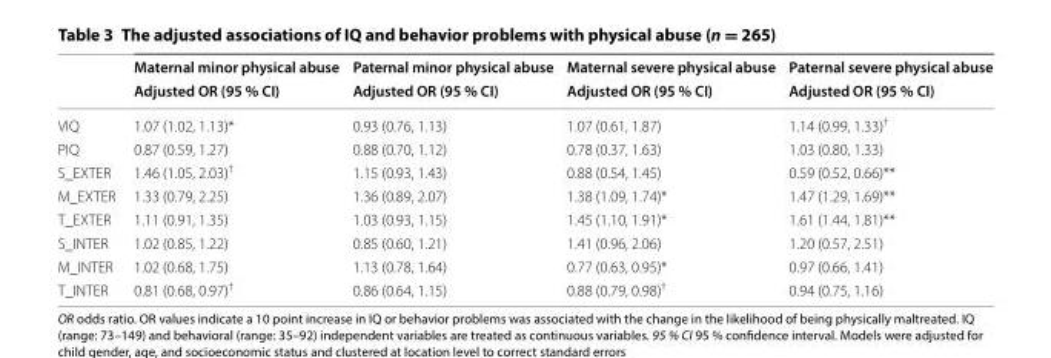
<table><thead><tr><td rowspan="2"></td><td rowspan="2">Maternal minor physical abuse Adjusted OR (95 % CI)</td><td rowspan="2">Paternal minor physical abuse Adjusted OR (95 % CI)</td><td rowspan="2">Maternal severe physical abuse Adjusted OR (95 % CI)</td><td rowspan="2">Paternal severe physical abuse Adjusted OR (95 % CI)</td></tr><tr></tr></thead><tbody><tr><td>VIQ</td><td>1.07 (1.02, 1.13)*</td><td>0.93 (0.76, 1.13)</td><td>1.07 (0.61, 1.87)</td><td>1.14 (0.99, 1.33)<sup>†</sup></td></tr><tr><td>PIQ</td><td>0.87 (0.59, 1.27)</td><td>0.88 (0.70, 1.12)</td><td>0.78 (0.37, 1.63)</td><td>1.03 (0.80, 1.33)</td></tr><tr><td>S_EXTER</td><td>1.46 (1.05, 2.03)<sup>†</sup></td><td>1.15 (0.93, 1.43)</td><td>0.88 (0.54, 1.45)</td><td>0.59 (0.52, 0.66)**</td></tr><tr><td>M_EXTER</td><td>1.33 (0.79, 2.25)</td><td>1.36 (0.89, 2.07)</td><td>1.38 (1.09, 1.74)*</td><td>1.47 (1.29, 1.69)**</td></tr><tr><td>T_EXTER</td><td>1.11 (0.91, 1.35)</td><td>1.03 (0.93, 1.15)</td><td>1.45 (1.10, 1.91)*</td><td>1.61 (1.44, 1.81)**</td></tr><tr><td>S_INTER</td><td>1.02 (0.85, 1.22)</td><td>0.85 (0.60, 1.21)</td><td>1.41 (0.96, 2.06)</td><td>1.20 (0.57, 2.51)</td></tr><tr><td>M_INTER</td><td>1.02 (0.68, 1.75)</td><td>1.13 (0.78, 1.64)</td><td>0.77 (0.63, 0.95)*</td><td>0.97 (0.66, 1.41)</td></tr><tr><td>T_INTER</td><td>0.81 (0.68, 0.97)<sup>†</sup></td><td>0.86 (0.64, 1.15)</td><td>0.88 (0.79, 0.98)<sup>†</sup></td><td>0.94 (0.75, 1.16)</td></tr></tbody></table>